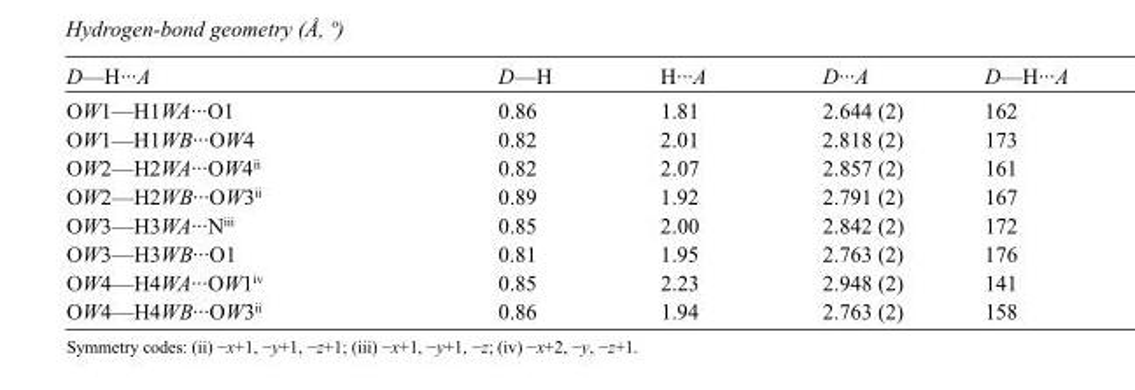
<table><tbody><tr><td>D—H···A</td><td>D—H</td><td>H···A</td><td>D···A</td><td>D—H···A</td></tr><tr><td>OW1—H1WA···O1</td><td>0.86</td><td>1.81</td><td>2.644 (2)</td><td>162</td></tr><tr><td>OW1—H1WB···OW4</td><td>0.82</td><td>2.01</td><td>2.818 (2)</td><td>173</td></tr><tr><td>OW2—H2WA···OW4<sup>ii</sup></td><td>0.82</td><td>2.07</td><td>2.857 (2)</td><td>161</td></tr><tr><td>OW2—H2WB···OW3<sup>ii</sup></td><td>0.89</td><td>1.92</td><td>2.791 (2)</td><td>167</td></tr><tr><td>OW3—H3WA···N<sup>iii</sup></td><td>0.85</td><td>2.00</td><td>2.842 (2)</td><td>172</td></tr><tr><td>OW3—H3WB···O1</td><td>0.81</td><td>1.95</td><td>2.763 (2)</td><td>176</td></tr><tr><td>OW4—H4WA···OW1<sup>iv</sup></td><td>0.85</td><td>2.23</td><td>2.948 (2)</td><td>141</td></tr><tr><td>OW4—H4WB···OW3<sup>ii</sup></td><td>0.86</td><td>1.94</td><td>2.763 (2)</td><td>158</td></tr></tbody></table>